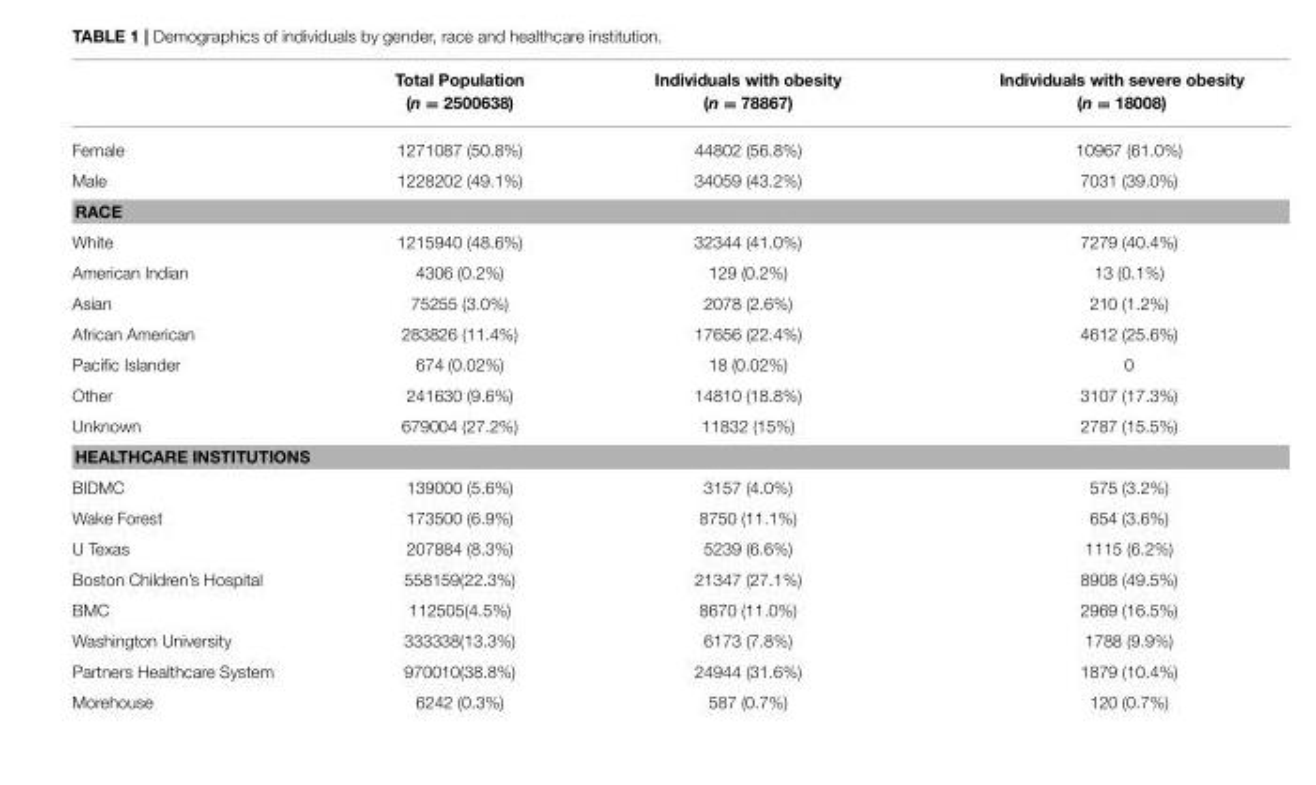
<table><thead><tr><td></td><td>Total Population (n = 2500638)</td><td>Individuals with obesity (n = 78867)</td><td>Individuals with severe obesity (n = 18008)</td></tr></thead><tbody><tr><td>Female</td><td>1271087 (50.8%)</td><td>44802 (56.8%)</td><td>10967 (61.0%)</td></tr><tr><td>Male</td><td>1228202 (49.1%)</td><td>34059 (43.2%)</td><td>7031 (39.0%)</td></tr><tr><td colspan="4">RACE</td></tr><tr><td>White</td><td>1215940 (48.6%)</td><td>32344 (41.0%)</td><td>7279 (40.4%)</td></tr><tr><td>American Indian</td><td>4306 (0.2%)</td><td>129 (0.2%)</td><td>13 (0.1%)</td></tr><tr><td>Asian</td><td>75255 (3.0%)</td><td>2078 (2.6%)</td><td>210 (1.2%)</td></tr><tr><td>African American</td><td>283826 (11.4%)</td><td>17656 (22.4%)</td><td>4612 (25.6%)</td></tr><tr><td>Pacific Islander</td><td>674 (0.02%)</td><td>18 (0.02%)</td><td>0</td></tr><tr><td>Other</td><td>241630 (9.6%)</td><td>14810 (18.8%)</td><td>3107 (17.3%)</td></tr><tr><td>Unknown</td><td>679004 (27.2%)</td><td>11832 (15%)</td><td>2787 (15.5%)</td></tr><tr><td colspan="4">HEALTHCARE INSTITUTIONS</td></tr><tr><td>BIDMC</td><td>139000 (5.6%)</td><td>3157 (4.0%)</td><td>575 (3.2%)</td></tr><tr><td>Wake Forest</td><td>173500 (6.9%)</td><td>8750 (11.1%)</td><td>654 (3.6%)</td></tr><tr><td>U Texas</td><td>207884 (8.3%)</td><td>5239 (6.6%)</td><td>1115 (6.2%)</td></tr><tr><td>Boston Children’s Hospital</td><td>558159(22.3%)</td><td>21347 (27.1%)</td><td>8908 (49.5%)</td></tr><tr><td>BMC</td><td>112505(4.5%)</td><td>8670 (11.0%)</td><td>2969 (16.5%)</td></tr><tr><td>Washington University</td><td>333338(13.3%)</td><td>6173 (7.8%)</td><td>1788 (9.9%)</td></tr><tr><td>Partners Healthcare System</td><td>970010(38.8%)</td><td>24944 (31.6%)</td><td>1879 (10.4%)</td></tr><tr><td>Morehouse</td><td>6242 (0.3%)</td><td>587 (0.7%)</td><td>120 (0.7%)</td></tr></tbody></table>